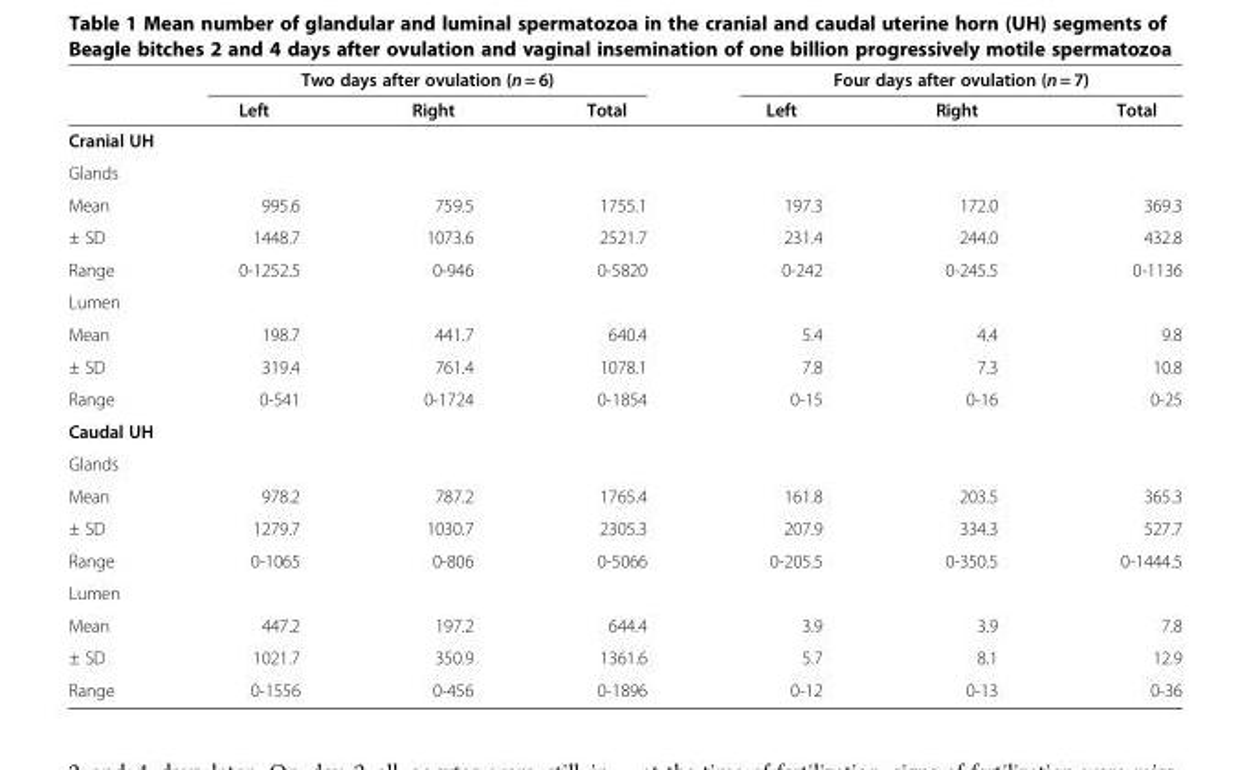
<table><thead><tr><td rowspan="2"></td><td colspan="3">Two days after ovulation (n = 6)</td><td colspan="3">Four days after ovulation (n = 7)</td></tr><tr><td>Left</td><td>Right</td><td>Total</td><td>Left</td><td>Right</td><td>Total</td></tr></thead><tbody><tr><td colspan="7">Cranial UH</td></tr><tr><td colspan="7">Glands</td></tr><tr><td>Mean</td><td>995.6</td><td>759.5</td><td>1755.1</td><td>197.3</td><td>172.0</td><td>369.3</td></tr><tr><td>± SD</td><td>1448.7</td><td>1073.6</td><td>2521.7</td><td>231.4</td><td>244.0</td><td>432.8</td></tr><tr><td>Range</td><td>0-1252.5</td><td>0-946</td><td>0-5820</td><td>0-242</td><td>0-245.5</td><td>0-1136</td></tr><tr><td colspan="7">Lumen</td></tr><tr><td>Mean</td><td>198.7</td><td>441.7</td><td>640.4</td><td>5.4</td><td>4.4</td><td>9.8</td></tr><tr><td>± SD</td><td>319.4</td><td>761.4</td><td>1078.1</td><td>7.8</td><td>7.3</td><td>10.8</td></tr><tr><td>Range</td><td>0-541</td><td>0-1724</td><td>0-1854</td><td>0-15</td><td>0-16</td><td>0-25</td></tr><tr><td colspan="7">Caudal UH</td></tr><tr><td colspan="7">Glands</td></tr><tr><td>Mean</td><td>978.2</td><td>787.2</td><td>1765.4</td><td>161.8</td><td>203.5</td><td>365.3</td></tr><tr><td>± SD</td><td>1279.7</td><td>1030.7</td><td>2305.3</td><td>207.9</td><td>334.3</td><td>527.7</td></tr><tr><td>Range</td><td>0-1065</td><td>0-806</td><td>0-5066</td><td>0-205.5</td><td>0-350.5</td><td>0-1444.5</td></tr><tr><td colspan="7">Lumen</td></tr><tr><td>Mean</td><td>447.2</td><td>197.2</td><td>644.4</td><td>3.9</td><td>3.9</td><td>7.8</td></tr><tr><td>± SD</td><td>1021.7</td><td>350.9</td><td>1361.6</td><td>5.7</td><td>8.1</td><td>12.9</td></tr><tr><td>Range</td><td>0-1556</td><td>0-456</td><td>0-1896</td><td>0-12</td><td>0-13</td><td>0-36</td></tr></tbody></table>